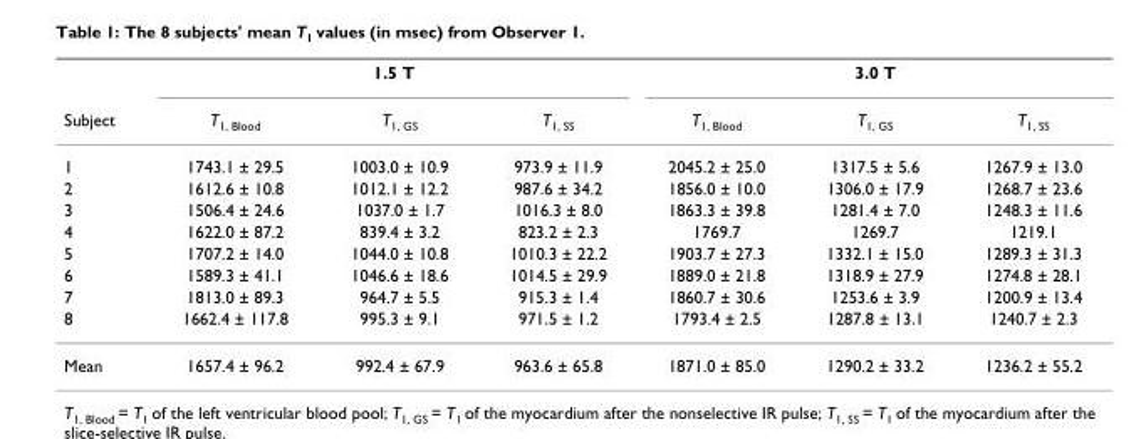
<table><thead><tr><td rowspan="2">Subject</td><td colspan="3">1.5 T</td><td colspan="3">3.0 T</td></tr><tr><td>T<sub>1, Blood</sub></td><td>T<sub>1, GS</sub></td><td>T<sub>1, SS</sub></td><td>T<sub>1, Blood</sub></td><td>T<sub>1, GS</sub></td><td>T<sub>1, SS</sub></td></tr></thead><tbody><tr><td>1</td><td>1743.1 ± 29.5</td><td>1003.0 ± 10.9</td><td>973.9 ± 11.9</td><td>2045.2 ± 25.0</td><td>1317.5 ± 5.6</td><td>1267.9 ± 13.0</td></tr><tr><td>2</td><td>1612.6 ± 10.8</td><td>1012.1 ± 12.2</td><td>987.6 ± 34.2</td><td>1856.0 ± 10.0</td><td>1306.0 ± 17.9</td><td>1268.7 ± 23.6</td></tr><tr><td>3</td><td>1506.4 ± 24.6</td><td>1037.0 ± 1.7</td><td>1016.3 ± 8.0</td><td>1863.3 ± 39.8</td><td>1281.4 ± 7.0</td><td>1248.3 ± 11.6</td></tr><tr><td>4</td><td>1622.0 ± 87.2</td><td>839.4 ± 3.2</td><td>823.2 ± 2.3</td><td>1769.7</td><td>1269.7</td><td>1219.1</td></tr><tr><td>5</td><td>1707.2 ± 14.0</td><td>1044.0 ± 10.8</td><td>1010.3 ± 22.2</td><td>1903.7 ± 27.3</td><td>1332.1 ± 15.0</td><td>1289.3 ± 31.3</td></tr><tr><td>6</td><td>1589.3 ± 41.1</td><td>1046.6 ± 18.6</td><td>1014.5 ± 29.9</td><td>1889.0 ± 21.8</td><td>1318.9 ± 27.9</td><td>1274.8 ± 28.1</td></tr><tr><td>7</td><td>1813.0 ± 89.3</td><td>964.7 ± 5.5</td><td>915.3 ± 1.4</td><td>1860.7 ± 30.6</td><td>1253.6 ± 3.9</td><td>1200.9 ± 13.4</td></tr><tr><td>8</td><td>1662.4 ± 117.8</td><td>995.3 ± 9.1</td><td>971.5 ± 1.2</td><td>1793.4 ± 2.5</td><td>1287.8 ± 13.1</td><td>1240.7 ± 2.3</td></tr><tr><td>Mean</td><td>1657.4 ± 96.2</td><td>992.4 ± 67.9</td><td>963.6 ± 65.8</td><td>1871.0 ± 85.0</td><td>1290.2 ± 33.2</td><td>1236.2 ± 55.2</td></tr></tbody></table>